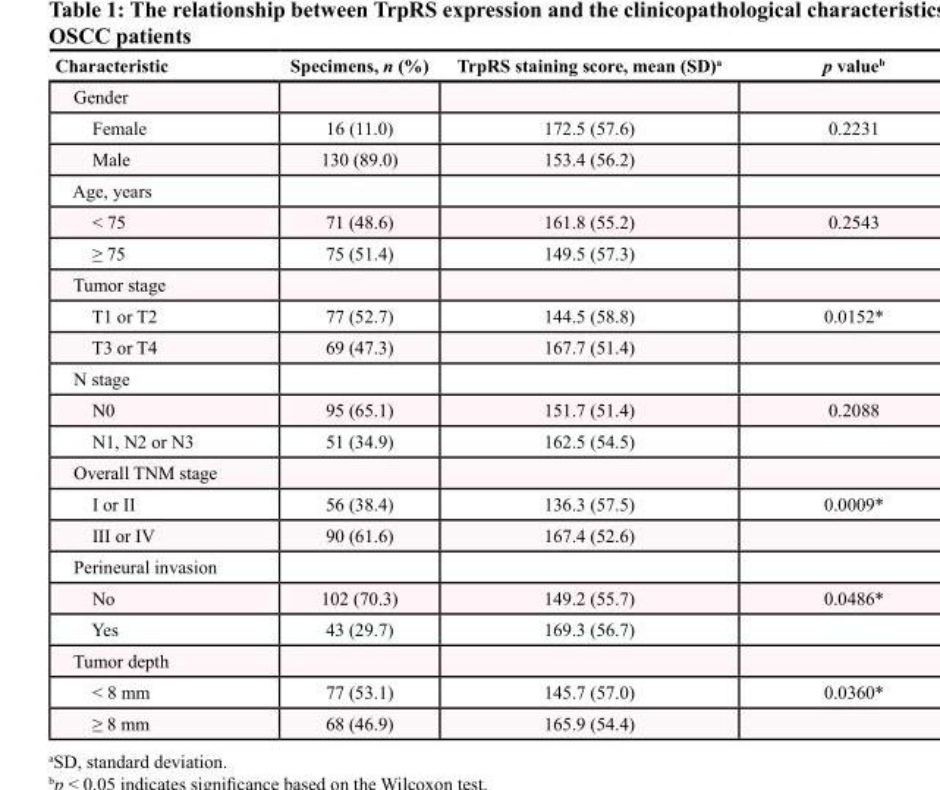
<table><thead><tr><td>Characteristic</td><td>Specimens, n (%)</td><td>TrpRS staining score, mean (SD)<sup>a</sup></td><td>p value<sup>b</sup></td></tr></thead><tbody><tr><td colspan="4">Gender</td></tr><tr><td>Female</td><td>16 (11.0)</td><td>172.5 (57.6)</td><td>0.2231</td></tr><tr><td>Male</td><td>130 (89.0)</td><td>153.4 (56.2)</td><td></td></tr><tr><td colspan="4">Age, years</td></tr><tr><td>&lt; 75</td><td>71 (48.6)</td><td>161.8 (55.2)</td><td>0.2543</td></tr><tr><td>≥ 75</td><td>75 (51.4)</td><td>149.5 (57.3)</td><td></td></tr><tr><td colspan="4">Tumor stage</td></tr><tr><td>T1 or T2</td><td>77 (52.7)</td><td>144.5 (58.8)</td><td>0.0152*</td></tr><tr><td>T3 or T4</td><td>69 (47.3)</td><td>167.7 (51.4)</td><td></td></tr><tr><td colspan="4">N stage</td></tr><tr><td>N0</td><td>95 (65.1)</td><td>151.7 (51.4)</td><td>0.2088</td></tr><tr><td>N1, N2 or N3</td><td>51 (34.9)</td><td>162.5 (54.5)</td><td></td></tr><tr><td colspan="4">Overall TNM stage</td></tr><tr><td>I or II</td><td>56 (38.4)</td><td>136.3 (57.5)</td><td>0.0009*</td></tr><tr><td>III or IV</td><td>90 (61.6)</td><td>167.4 (52.6)</td><td></td></tr><tr><td colspan="4">Perineural invasion</td></tr><tr><td>No</td><td>102 (70.3)</td><td>149.2 (55.7)</td><td>0.0486*</td></tr><tr><td>Yes</td><td>43 (29.7)</td><td>169.3 (56.7)</td><td></td></tr><tr><td colspan="4">Tumor depth</td></tr><tr><td>&lt; 8 mm</td><td>77 (53.1)</td><td>145.7 (57.0)</td><td>0.0360*</td></tr><tr><td>≥ 8 mm</td><td>68 (46.9)</td><td>165.9 (54.4)</td><td></td></tr></tbody></table>